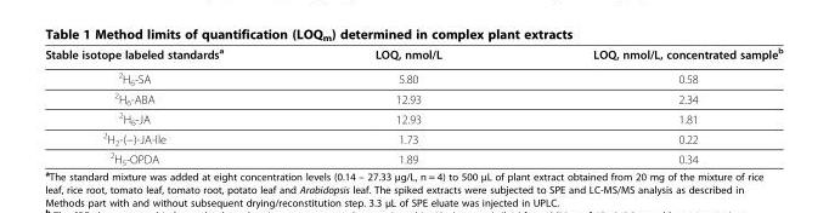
<table><thead><tr><td>Stable isotope labeled standards<sup>a</sup></td><td>LOQ, nmol/L</td><td>LOQ, nmol/L, concentrated sample<sup>b</sup></td></tr></thead><tbody><tr><td><sup>2</sup>H<sub>6</sub>-SA</td><td>5.80</td><td>0.58</td></tr><tr><td><sup>2</sup>H<sub>6</sub>-ABA</td><td>12.93</td><td>2.34</td></tr><tr><td><sup>2</sup>H<sub>6</sub>-JA</td><td>12.93</td><td>1.81</td></tr><tr><td><sup>2</sup>H<sub>2</sub>-(−)-JA-Ile</td><td>1.73</td><td>0.22</td></tr><tr><td><sup>2</sup>H<sub>5</sub>-OPDA</td><td>1.89</td><td>0.34</td></tr></tbody></table>